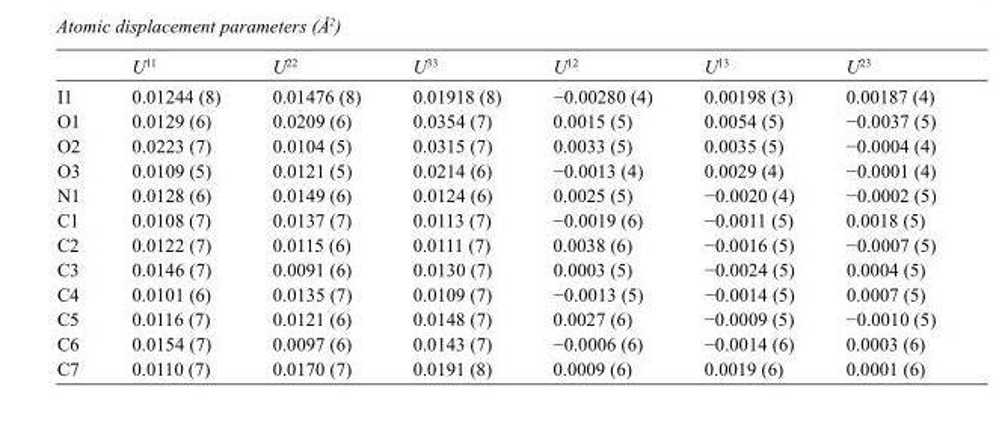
<table><thead><tr><td></td><td>U<sup>11</sup></td><td>U<sup>22</sup></td><td>U<sup>33</sup></td><td>U<sup>12</sup></td><td>U<sup>13</sup></td><td>U<sup>23</sup></td></tr></thead><tbody><tr><td>I1</td><td>0.01244 (8)</td><td>0.01476 (8)</td><td>0.01918 (8)</td><td>−0.00280 (4)</td><td>0.00198 (3)</td><td>0.00187 (4)</td></tr><tr><td>O1</td><td>0.0129 (6)</td><td>0.0209 (6)</td><td>0.0354 (7)</td><td>0.0015 (5)</td><td>0.0054 (5)</td><td>−0.0037 (5)</td></tr><tr><td>O2</td><td>0.0223 (7)</td><td>0.0104 (5)</td><td>0.0315 (7)</td><td>0.0033 (5)</td><td>0.0035 (5)</td><td>−0.0004 (4)</td></tr><tr><td>O3</td><td>0.0109 (5)</td><td>0.0121 (5)</td><td>0.0214 (6)</td><td>−0.0013 (4)</td><td>0.0029 (4)</td><td>−0.0001 (4)</td></tr><tr><td>N1</td><td>0.0128 (6)</td><td>0.0149 (6)</td><td>0.0124 (6)</td><td>0.0025 (5)</td><td>−0.0020 (4)</td><td>−0.0002 (5)</td></tr><tr><td>C1</td><td>0.0108 (7)</td><td>0.0137 (7)</td><td>0.0113 (7)</td><td>−0.0019 (6)</td><td>−0.0011 (5)</td><td>0.0018 (5)</td></tr><tr><td>C2</td><td>0.0122 (7)</td><td>0.0115 (6)</td><td>0.0111 (7)</td><td>0.0038 (6)</td><td>−0.0016 (5)</td><td>−0.0007 (5)</td></tr><tr><td>C3</td><td>0.0146 (7)</td><td>0.0091 (6)</td><td>0.0130 (7)</td><td>0.0003 (5)</td><td>−0.0024 (5)</td><td>0.0004 (5)</td></tr><tr><td>C4</td><td>0.0101 (6)</td><td>0.0135 (7)</td><td>0.0109 (7)</td><td>−0.0013 (5)</td><td>−0.0014 (5)</td><td>0.0007 (5)</td></tr><tr><td>C5</td><td>0.0116 (7)</td><td>0.0121 (6)</td><td>0.0148 (7)</td><td>0.0027 (6)</td><td>−0.0009 (5)</td><td>−0.0010 (5)</td></tr><tr><td>C6</td><td>0.0154 (7)</td><td>0.0097 (6)</td><td>0.0143 (7)</td><td>−0.0006 (6)</td><td>−0.0014 (6)</td><td>0.0003 (6)</td></tr><tr><td>C7</td><td>0.0110 (7)</td><td>0.0170 (7)</td><td>0.0191 (8)</td><td>0.0009 (6)</td><td>0.0019 (6)</td><td>0.0001 (6)</td></tr></tbody></table>